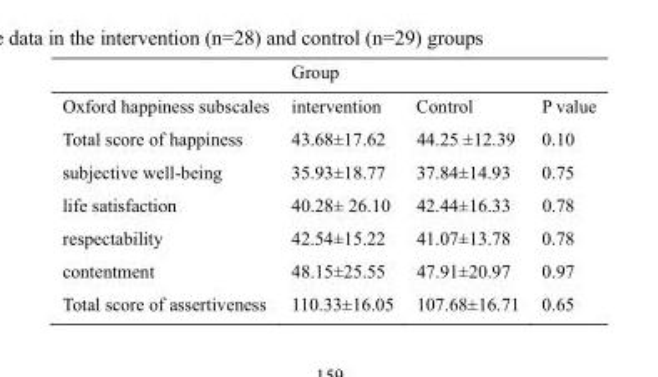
<table><thead><tr><td colspan="4">Group</td></tr><tr><td>Oxford happiness subscales</td><td>intervention</td><td>Control</td><td>P value</td></tr></thead><tbody><tr><td>Total score of happiness</td><td>43.68±17.62</td><td>44.25 ±12.39</td><td>0.10</td></tr><tr><td>subjective well-being</td><td>35.93±18.77</td><td>37.84±14.93</td><td>0.75</td></tr><tr><td>life satisfaction</td><td>40.28± 26.10</td><td>42.44±16.33</td><td>0.78</td></tr><tr><td>respectability</td><td>42.54±15.22</td><td>41.07±13.78</td><td>0.78</td></tr><tr><td>contentment</td><td>48.15±25.55</td><td>47.91±20.97</td><td>0.97</td></tr><tr><td>Total score of assertiveness</td><td>110.33±16.05</td><td>107.68±16.71</td><td>0.65</td></tr></tbody></table>